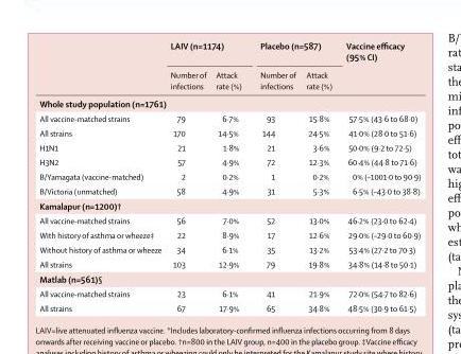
<table><thead><tr><td rowspan="2"></td><td colspan="2">LAIV (n=1174)</td><td colspan="2">Placebo (n=587)</td><td rowspan="2">Vaccine effi cacy (95% CI)</td></tr><tr><td>Number of infections</td><td>Attack rate (%)</td><td>Number of infections</td><td>Attack rate (%)</td></tr></thead><tbody><tr><td colspan="6">Whole study population (n=1761)</td></tr><tr><td>All vaccine-matched strains</td><td>79</td><td>6·7%</td><td>93</td><td>15·8%</td><td>57·5% (43·6 to 68·0)</td></tr><tr><td>All strains</td><td>170</td><td>14·5%</td><td>144</td><td>24·5%</td><td>41·0% (28·0 to 51·6)</td></tr><tr><td>H1N1</td><td>21</td><td>1·8%</td><td>21</td><td>3·6%</td><td>50·0% (9·2 to 72·5)</td></tr><tr><td>H3N2</td><td>57</td><td>4·9%</td><td>72</td><td>12·3%</td><td>60·4% (44·8 to 71·6)</td></tr><tr><td>B/Yamagata (vaccine-matched)</td><td>2</td><td>0·2%</td><td>1</td><td>0·2%</td><td>0% (–1001·0 to 90·9)</td></tr><tr><td>B/Victoria (unmatched)</td><td>58</td><td>4·9%</td><td>31</td><td>5·3%</td><td>6·5% (–43·0 to 38·8)</td></tr><tr><td colspan="6">Kamalapur (n=1200)†</td></tr><tr><td>All vaccine-matched strains</td><td>56</td><td>7·0%</td><td>52</td><td>13·0%</td><td>46·2% (23·0 to 62·4)</td></tr><tr><td>With history of asthma or wheeze‡</td><td>22</td><td>8·9%</td><td>17</td><td>12·6%</td><td>29·0% (–29·0 to 60·9)</td></tr><tr><td>Without history of asthma or wheeze</td><td>34</td><td>6·1%</td><td>35</td><td>13·2%</td><td>53·4% (27·2 to 70·3)</td></tr><tr><td>All strains</td><td>103</td><td>12·9%</td><td>79</td><td>19·8%</td><td>34·8% (14·8 to 50·1)</td></tr><tr><td colspan="6">Matlab (n=561)§</td></tr><tr><td>All vaccine-matched strains</td><td>23</td><td>6·1%</td><td>41</td><td>21·9%</td><td>72·0% (54·7 to 82·6)</td></tr><tr><td>All strains</td><td>67</td><td>17·9%</td><td>65</td><td>34·8%</td><td>48·5% (30·9 to 61·5)</td></tr></tbody></table>